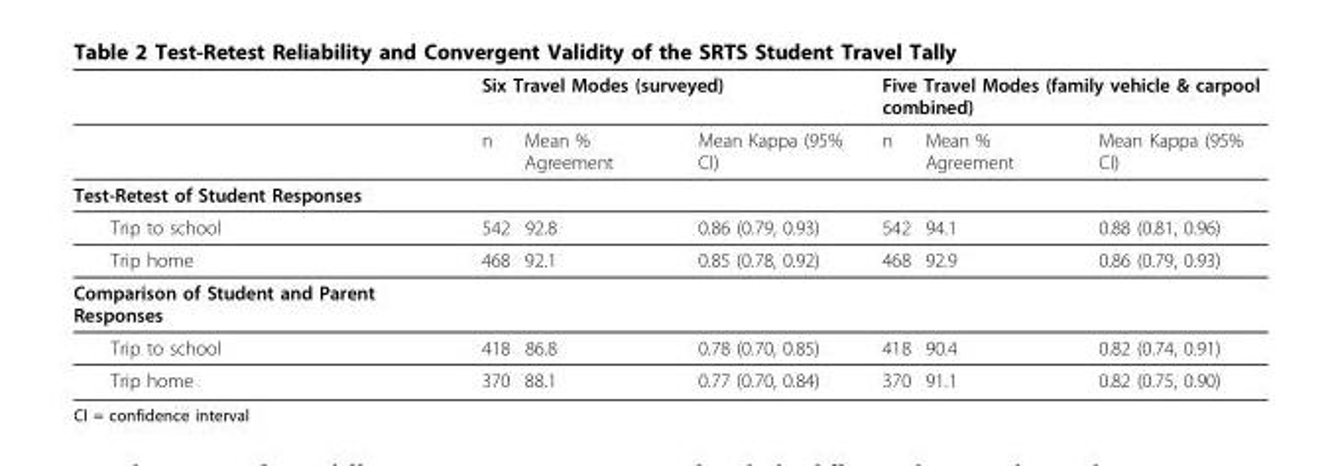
<table><thead><tr><td rowspan="2"></td><td colspan="3">Six Travel Modes (surveyed)</td><td colspan="3">Five Travel Modes (family vehicle &amp; carpool combined)</td></tr><tr><td>n</td><td>Mean % Agreement</td><td>Mean Kappa (95% CI)</td><td>n</td><td>Mean % Agreement</td><td>Mean Kappa (95% CI)</td></tr></thead><tbody><tr><td colspan="7">Test-Retest of Student Responses</td></tr><tr><td>Trip to school</td><td>542</td><td>92.8</td><td>0.86 (0.79, 0.93)</td><td>542</td><td>94.1</td><td>0.88 (0.81, 0.96)</td></tr><tr><td>Trip home</td><td>468</td><td>92.1</td><td>0.85 (0.78, 0.92)</td><td>468</td><td>92.9</td><td>0.86 (0.79, 0.93)</td></tr><tr><td colspan="7">Comparison of Student and Parent Responses</td></tr><tr><td>Trip to school</td><td>418</td><td>86.8</td><td>0.78 (0.70, 0.85)</td><td>418</td><td>90.4</td><td>0.82 (0.74, 0.91)</td></tr><tr><td>Trip home</td><td>370</td><td>88.1</td><td>0.77 (0.70, 0.84)</td><td>370</td><td>91.1</td><td>0.82 (0.75, 0.90)</td></tr></tbody></table>